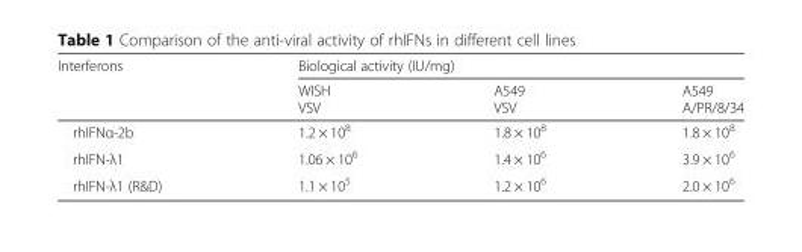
<table><thead><tr><td rowspan="2">Interferons</td><td colspan="3">Biological activity (IU/mg)</td></tr><tr><td>WISH VSV</td><td>A549 VSV</td><td>A549 A/PR/8/34</td></tr></thead><tbody><tr><td>rhIFNα-2b</td><td>1.2 × 10<sup>8</sup></td><td>1.8 × 10<sup>8</sup></td><td>1.8 × 10<sup>8</sup></td></tr><tr><td>rhIFN-λ1</td><td>1.06 × 10<sup>6</sup></td><td>1.4 × 10<sup>6</sup></td><td>3.9 × 10<sup>6</sup></td></tr><tr><td>rhIFN-λ1 (R&amp;D)</td><td>1.1 × 10<sup>5</sup></td><td>1.2 × 10<sup>6</sup></td><td>2.0 × 10<sup>6</sup></td></tr></tbody></table>